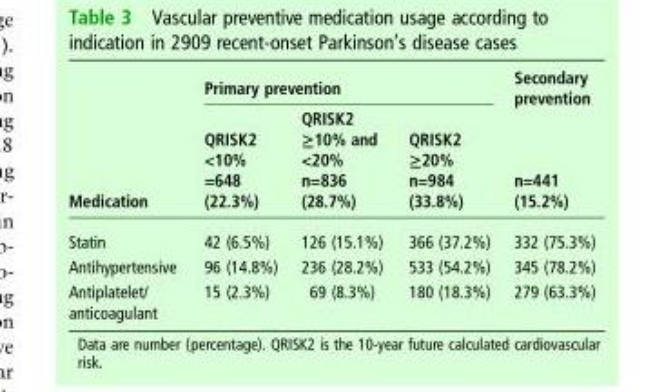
<table><thead><tr><td rowspan="2">Medication</td><td colspan="3">Primary prevention</td><td rowspan="2">Secondary prevention n=441 (15.2%)</td></tr><tr><td>QRISK2 &lt;10% =648 (22.3%)</td><td>QRISK2 ≥10% and &lt;20% n=836 (28.7%)</td><td>QRISK2 ≥20% n=984 (33.8%)</td></tr></thead><tbody><tr><td>Statin</td><td>42 (6.5%)</td><td>126 (15.1%)</td><td>366 (37.2%)</td><td>332 (75.3%)</td></tr><tr><td>Antihypertensive</td><td>96 (14.8%)</td><td>236 (28.2%)</td><td>533 (54.2%)</td><td>345 (78.2%)</td></tr><tr><td>Antiplatelet/ anticoagulant</td><td>15 (2.3%)</td><td>69 (8.3%)</td><td>180 (18.3%)</td><td>279 (63.3%)</td></tr></tbody></table>